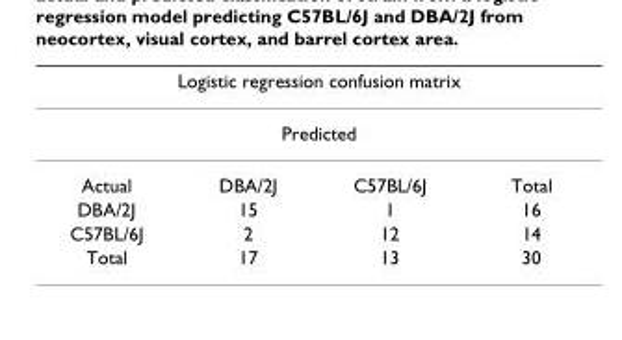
<table><thead><tr><td colspan="4">Logistic regression confusion matrix</td></tr><tr><td rowspan="2">Actual</td><td colspan="2">Predicted</td><td rowspan="2">Total</td></tr><tr><td>DBA/2J</td><td>C57BL/6J</td></tr></thead><tbody><tr><td>DBA/2J</td><td>15</td><td>1</td><td>16</td></tr><tr><td>C57BL/6J</td><td>2</td><td>12</td><td>14</td></tr><tr><td>Total</td><td>17</td><td>13</td><td>30</td></tr></tbody></table>